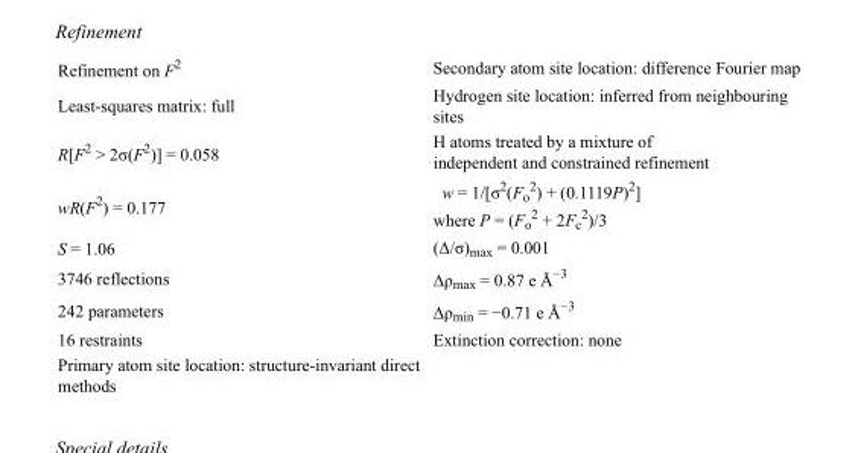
<table><tbody><tr><td>Refinement on F<sup>2</sup></td><td>Secondary atom site location: difference Fourier map</td></tr><tr><td>Least-squares matrix: full</td><td>Hydrogen site location: inferred from neighbouring sites</td></tr><tr><td>R[F<sup>2</sup> &gt; 2σ(F<sup>2</sup>)] = 0.058</td><td>H atoms treated by a mixture of independent and constrained refinement</td></tr><tr><td>wR(F<sup>2</sup>) = 0.177</td><td>w = 1/[σ<sup>2</sup>(F<sub>o</sub> <sup>2</sup>) + (0.1119P)<sup>2</sup>] where P = (F<sub>o</sub> <sup>2</sup> + 2F<sub>c</sub> <sup>2</sup>)/3</td></tr><tr><td>S = 1.06</td><td>(Δ/σ)<sub>max</sub> = 0.001</td></tr><tr><td>3746 reflections</td><td>Δρ<sub>max</sub> = 0.87 e Å<sup>−3</sup></td></tr><tr><td>242 parameters</td><td>Δρ<sub>min</sub> = −0.71 e Å<sup>−3</sup></td></tr><tr><td>16 restraints</td><td>Extinction correction: none</td></tr><tr><td>Primary atom site location: structure-invariant direct methods</td><td></td></tr></tbody></table>